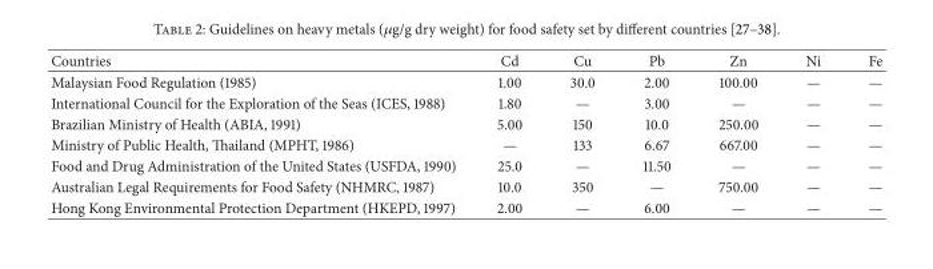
<table><thead><tr><td>Countries</td><td>Cd</td><td>Cu</td><td>Pb</td><td>Zn</td><td>Ni</td><td>Fe</td></tr></thead><tbody><tr><td>Malaysian Food Regulation (1985)</td><td>1.00</td><td>30.0</td><td>2.00</td><td>100.00</td><td>—</td><td>—</td></tr><tr><td>International Council for the Exploration of the Seas (ICES, 1988)</td><td>1.80</td><td>—</td><td>3.00</td><td>—</td><td>—</td><td>—</td></tr><tr><td>Brazilian Ministry of Health (ABIA, 1991)</td><td>5.00</td><td>150</td><td>10.0</td><td>250.00</td><td>—</td><td>—</td></tr><tr><td>Ministry of Public Health, Thailand (MPHT, 1986)</td><td>—</td><td>133</td><td>6.67</td><td>667.00</td><td>—</td><td>—</td></tr><tr><td>Food and Drug Administration of the United States (USFDA, 1990)</td><td>25.0</td><td>—</td><td>11.50</td><td>—</td><td>—</td><td>—</td></tr><tr><td>Australian Legal Requirements for Food Safety (NHMRC, 1987)</td><td>10.0</td><td>350</td><td>—</td><td>750.00</td><td>—</td><td>—</td></tr><tr><td>Hong Kong Environmental Protection Department (HKEPD, 1997)</td><td>2.00</td><td>—</td><td>6.00</td><td>—</td><td>—</td><td>—</td></tr></tbody></table>